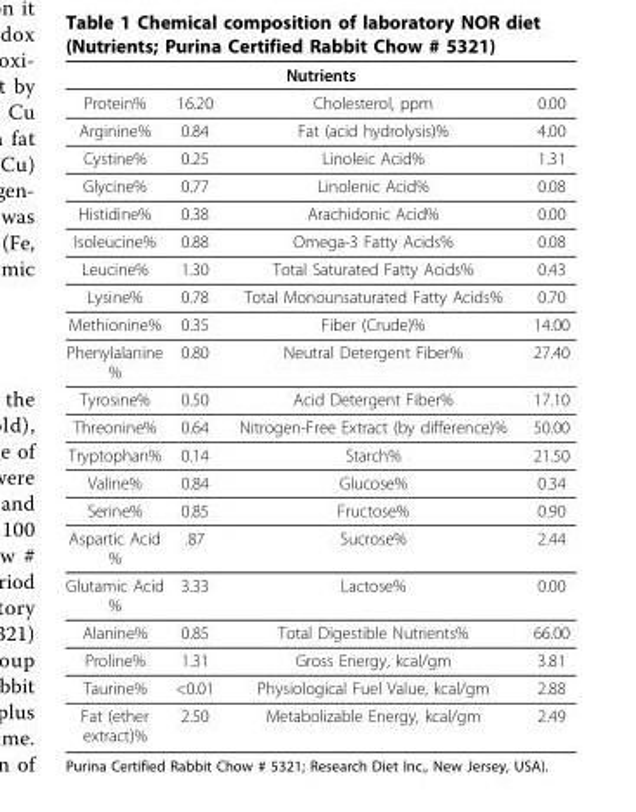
<table><thead><tr><td colspan="4">Nutrients</td></tr><tr><td>Protein%</td><td>16.20</td><td>Cholesterol, ppm</td><td>0.00</td></tr></thead><tbody><tr><td>Arginine%</td><td>0.84</td><td>Fat (acid hydrolysis)%</td><td>4.00</td></tr><tr><td>Cystine%</td><td>0.25</td><td>Linoleic Acid%</td><td>1.31</td></tr><tr><td>Glycine%</td><td>0.77</td><td>Linolenic Acid%</td><td>0.08</td></tr><tr><td>Histidine%</td><td>0.38</td><td>Arachidonic Acid%</td><td>0.00</td></tr><tr><td>Isoleucine%</td><td>0.88</td><td>Omega-3 Fatty Acids%</td><td>0.08</td></tr><tr><td>Leucine%</td><td>1.30</td><td>Total Saturated Fatty Acids%</td><td>0.43</td></tr><tr><td>Lysine%</td><td>0.78</td><td>Total Monounsaturated Fatty Acids%</td><td>0.70</td></tr><tr><td>Methionine%</td><td>0.35</td><td>Fiber (Crude)%</td><td>14.00</td></tr><tr><td>Phenylalanine %</td><td>0.80</td><td>Neutral Detergent Fiber%</td><td>27.40</td></tr><tr><td>Tyrosine%</td><td>0.50</td><td>Acid Detergent Fiber%</td><td>17.10</td></tr><tr><td>Threonine%</td><td>0.64</td><td>Nitrogen-Free Extract (by difference)%</td><td>50.00</td></tr><tr><td>Tryptophan%</td><td>0.14</td><td>Starch%</td><td>21.50</td></tr><tr><td>Valine%</td><td>0.84</td><td>Glucose%</td><td>0.34</td></tr><tr><td>Serine%</td><td>0.85</td><td>Fructose%</td><td>0.90</td></tr><tr><td>Aspartic Acid %</td><td>.87</td><td>Sucrose%</td><td>2.44</td></tr><tr><td>Glutamic Acid %</td><td>3.33</td><td>Lactose%</td><td>0.00</td></tr><tr><td>Alanine%</td><td>0.85</td><td>Total Digestible Nutrients%</td><td>66.00</td></tr><tr><td>Proline%</td><td>1.31</td><td>Gross Energy, kcal/gm</td><td>3.81</td></tr><tr><td>Taurine%</td><td>&lt;0.01</td><td>Physiological Fuel Value, kcal/gm</td><td>2.88</td></tr><tr><td>Fat (ether extract)%</td><td>2.50</td><td>Metabolizable Energy, kcal/gm</td><td>2.49</td></tr></tbody></table>